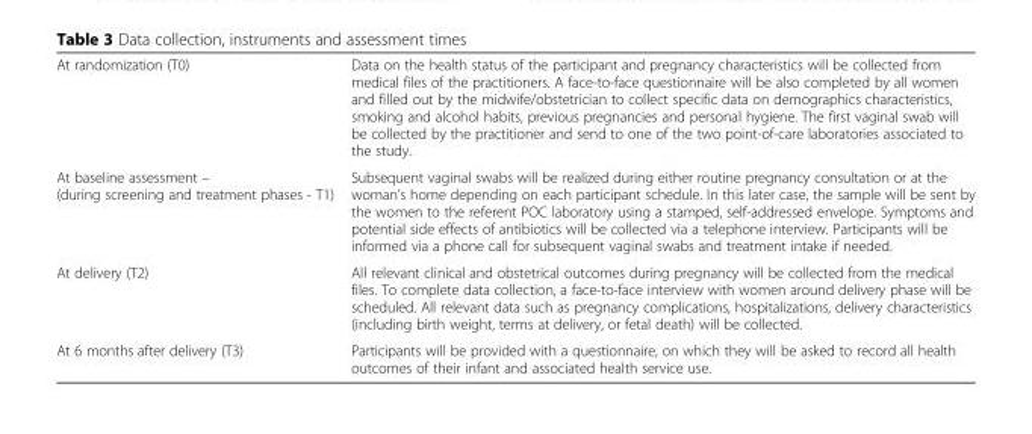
<table><tbody><tr><td>At randomization (T0)</td><td>Data on the health status of the participant and pregnancy characteristics will be collected from medical files of the practitioners. A face-to-face questionnaire will be also completed by all women and filled out by the midwife/obstetrician to collect specific data on demographics characteristics, smoking and alcohol habits, previous pregnancies and personal hygiene. The first vaginal swab will be collected by the practitioner and send to one of the two point-of-care laboratories associated to the study.</td></tr><tr><td>At baseline assessment – (during screening and treatment phases - T1)</td><td>Subsequent vaginal swabs will be realized during either routine pregnancy consultation or at the woman’s home depending on each participant schedule. In this later case, the sample will be sent by the women to the referent POC laboratory using a stamped, self-addressed envelope. Symptoms and potential side effects of antibiotics will be collected via a telephone interview. Participants will be informed via a phone call for subsequent vaginal swabs and treatment intake if needed.</td></tr><tr><td>At delivery (T2)</td><td>All relevant clinical and obstetrical outcomes during pregnancy will be collected from the medical files. To complete data collection, a face-to-face interview with women around delivery phase will be scheduled. All relevant data such as pregnancy complications, hospitalizations, delivery characteristics (including birth weight, terms at delivery, or fetal death) will be collected.</td></tr><tr><td>At 6 months after delivery (T3)</td><td>Participants will be provided with a questionnaire, on which they will be asked to record all health outcomes of their infant and associated health service use.</td></tr></tbody></table>